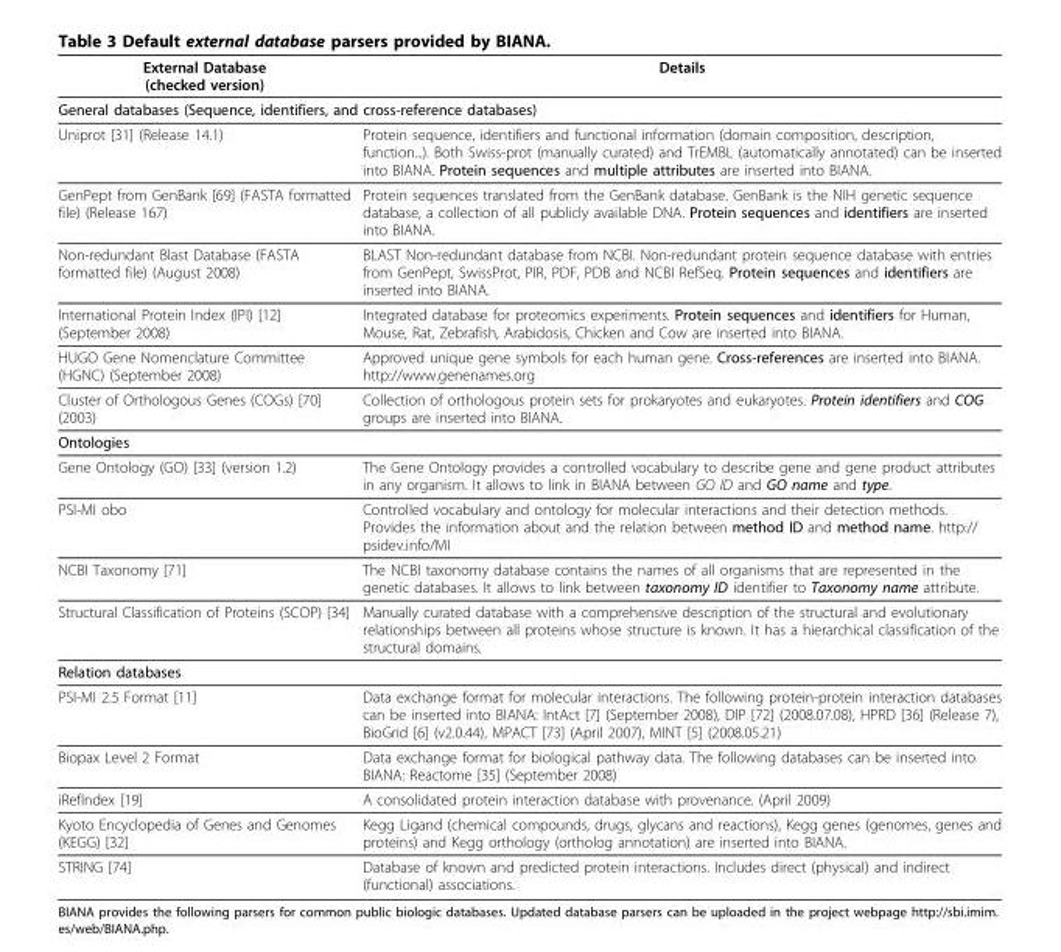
<table><thead><tr><td>External Database (checked version)</td><td>Details</td></tr></thead><tbody><tr><td colspan="2">General databases (Sequence, identifiers, and cross-reference databases)</td></tr><tr><td>Uniprot [31] (Release 14.1)</td><td>Protein sequence, identifiers and functional information (domain composition, description, function...). Both Swiss-prot (manually curated) and TrEMBL (automatically annotated) can be inserted into BIANA. Protein sequences and multiple attributes are inserted into BIANA.</td></tr><tr><td>GenPept from GenBank [69] (FASTA formatted file) (Release 167)</td><td>Protein sequences translated from the GenBank database. GenBank is the NIH genetic sequence database, a collection of all publicly available DNA. Protein sequences and identifiers are inserted into BIANA.</td></tr><tr><td>Non-redundant Blast Database (FASTA formatted file) (August 2008)</td><td>BLAST Non-redundant database from NCBI. Non-redundant protein sequence database with entries from GenPept, SwissProt, PIR, PDF, PDB and NCBI RefSeq. Protein sequences and identifiers are inserted into BIANA.</td></tr><tr><td>International Protein Index (IPI) [12] (September 2008)</td><td>Integrated database for proteomics experiments. Protein sequences and identifiers for Human, Mouse, Rat, Zebrafish, Arabidosis, Chicken and Cow are inserted into BIANA.</td></tr><tr><td>HUGO Gene Nomenclature Committee (HGNC) (September 2008)</td><td>Approved unique gene symbols for each human gene. Cross-references are inserted into BIANA. http://www.genenames.org</td></tr><tr><td>Cluster of Orthologous Genes (COGs) [70] (2003)</td><td>Collection of orthologous protein sets for prokaryotes and eukaryotes. Protein identifiers and COG groups are inserted into BIANA.</td></tr><tr><td colspan="2">Ontologies</td></tr><tr><td>Gene Ontology (GO) [33] (version 1.2)</td><td>The Gene Ontology provides a controlled vocabulary to describe gene and gene product attributes in any organism. It allows to link in BIANA between GO ID and GO name and type.</td></tr><tr><td>PSI-MI obo</td><td>Controlled vocabulary and ontology for molecular interactions and their detection methods. Provides the information about and the relation between method ID and method name. http:// psidev.info/MI</td></tr><tr><td>NCBI Taxonomy [71]</td><td>The NCBI taxonomy database contains the names of all organisms that are represented in the genetic databases. It allows to link between taxonomy ID identifier to Taxonomy name attribute.</td></tr><tr><td>Structural Classification of Proteins (SCOP) [34]</td><td>Manually curated database with a comprehensive description of the structural and evolutionary relationships between all proteins whose structure is known. It has a hierarchical classification of the structural domains.</td></tr><tr><td colspan="2">Relation databases</td></tr><tr><td>PSI-MI 2.5 Format [11]</td><td>Data exchange format for molecular interactions. The following protein-protein interaction databases can be inserted into BIANA: IntAct [7] (September 2008), DIP [72] (2008.07.08), HPRD [36] (Release 7), BioGrid [6] (v2.0.44), MPACT [73] (April 2007), MINT [5] (2008.05.21)</td></tr><tr><td>Biopax Level 2 Format</td><td>Data exchange format for biological pathway data. The following databases can be inserted into BIANA: Reactome [35] (September 2008)</td></tr><tr><td>iRefIndex [19]</td><td>A consolidated protein interaction database with provenance. (April 2009)</td></tr><tr><td>Kyoto Encyclopedia of Genes and Genomes (KEGG) [32]</td><td>Kegg Ligand (chemical compounds, drugs, glycans and reactions), Kegg genes (genomes, genes and proteins) and Kegg orthology (ortholog annotation) are inserted into BIANA.</td></tr><tr><td>STRING [74]</td><td>Database of known and predicted protein interactions. Includes direct (physical) and indirect (functional) associations.</td></tr></tbody></table>